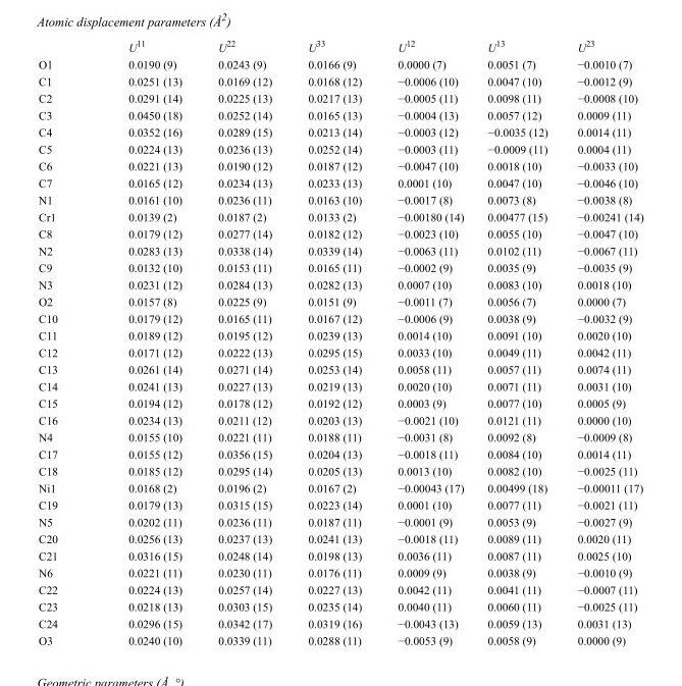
<table><thead><tr><td></td><td>U<sup>11</sup></td><td>U<sup>22</sup></td><td>U<sup>33</sup></td><td>U<sup>12</sup></td><td>U<sup>13</sup></td><td>U<sup>23</sup></td></tr></thead><tbody><tr><td>O1</td><td>0.0190 (9)</td><td>0.0243 (9)</td><td>0.0166 (9)</td><td>0.0000 (7)</td><td>0.0051 (7)</td><td>−0.0010 (7)</td></tr><tr><td>C1</td><td>0.0251 (13)</td><td>0.0169 (12)</td><td>0.0168 (12)</td><td>−0.0006 (10)</td><td>0.0047 (10)</td><td>−0.0012 (9)</td></tr><tr><td>C2</td><td>0.0291 (14)</td><td>0.0225 (13)</td><td>0.0217 (13)</td><td>−0.0005 (11)</td><td>0.0098 (11)</td><td>−0.0008 (10)</td></tr><tr><td>C3</td><td>0.0450 (18)</td><td>0.0252 (14)</td><td>0.0165 (13)</td><td>−0.0004 (13)</td><td>0.0057 (12)</td><td>0.0009 (11)</td></tr><tr><td>C4</td><td>0.0352 (16)</td><td>0.0289 (15)</td><td>0.0213 (14)</td><td>−0.0003 (12)</td><td>−0.0035 (12)</td><td>0.0014 (11)</td></tr><tr><td>C5</td><td>0.0224 (13)</td><td>0.0236 (13)</td><td>0.0252 (14)</td><td>−0.0003 (11)</td><td>−0.0009 (11)</td><td>0.0004 (11)</td></tr><tr><td>C6</td><td>0.0221 (13)</td><td>0.0190 (12)</td><td>0.0187 (12)</td><td>−0.0047 (10)</td><td>0.0018 (10)</td><td>−0.0033 (10)</td></tr><tr><td>C7</td><td>0.0165 (12)</td><td>0.0234 (13)</td><td>0.0233 (13)</td><td>0.0001 (10)</td><td>0.0047 (10)</td><td>−0.0046 (10)</td></tr><tr><td>N1</td><td>0.0161 (10)</td><td>0.0236 (11)</td><td>0.0163 (10)</td><td>−0.0017 (8)</td><td>0.0073 (8)</td><td>−0.0038 (8)</td></tr><tr><td>Cr1</td><td>0.0139 (2)</td><td>0.0187 (2)</td><td>0.0133 (2)</td><td>−0.00180 (14)</td><td>0.00477 (15)</td><td>−0.00241 (14)</td></tr><tr><td>C8</td><td>0.0179 (12)</td><td>0.0277 (14)</td><td>0.0182 (12)</td><td>−0.0023 (10)</td><td>0.0055 (10)</td><td>−0.0047 (10)</td></tr><tr><td>N2</td><td>0.0283 (13)</td><td>0.0338 (14)</td><td>0.0339 (14)</td><td>−0.0063 (11)</td><td>0.0102 (11)</td><td>−0.0067 (11)</td></tr><tr><td>C9</td><td>0.0132 (10)</td><td>0.0153 (11)</td><td>0.0165 (11)</td><td>−0.0002 (9)</td><td>0.0035 (9)</td><td>−0.0035 (9)</td></tr><tr><td>N3</td><td>0.0231 (12)</td><td>0.0284 (13)</td><td>0.0282 (13)</td><td>0.0007 (10)</td><td>0.0083 (10)</td><td>0.0018 (10)</td></tr><tr><td>O2</td><td>0.0157 (8)</td><td>0.0225 (9)</td><td>0.0151 (9)</td><td>−0.0011 (7)</td><td>0.0056 (7)</td><td>0.0000 (7)</td></tr><tr><td>C10</td><td>0.0179 (12)</td><td>0.0165 (11)</td><td>0.0167 (12)</td><td>−0.0006 (9)</td><td>0.0038 (9)</td><td>−0.0032 (9)</td></tr><tr><td>C11</td><td>0.0189 (12)</td><td>0.0195 (12)</td><td>0.0239 (13)</td><td>0.0014 (10)</td><td>0.0091 (10)</td><td>0.0020 (10)</td></tr><tr><td>C12</td><td>0.0171 (12)</td><td>0.0222 (13)</td><td>0.0295 (15)</td><td>0.0033 (10)</td><td>0.0049 (11)</td><td>0.0042 (11)</td></tr><tr><td>C13</td><td>0.0261 (14)</td><td>0.0271 (14)</td><td>0.0253 (14)</td><td>0.0058 (11)</td><td>0.0057 (11)</td><td>0.0074 (11)</td></tr><tr><td>C14</td><td>0.0241 (13)</td><td>0.0227 (13)</td><td>0.0219 (13)</td><td>0.0020 (10)</td><td>0.0071 (11)</td><td>0.0031 (10)</td></tr><tr><td>C15</td><td>0.0194 (12)</td><td>0.0178 (12)</td><td>0.0192 (12)</td><td>0.0003 (9)</td><td>0.0077 (10)</td><td>0.0005 (9)</td></tr><tr><td>C16</td><td>0.0234 (13)</td><td>0.0211 (12)</td><td>0.0203 (13)</td><td>−0.0021 (10)</td><td>0.0121 (11)</td><td>0.0000 (10)</td></tr><tr><td>N4</td><td>0.0155 (10)</td><td>0.0221 (11)</td><td>0.0188 (11)</td><td>−0.0031 (8)</td><td>0.0092 (8)</td><td>−0.0009 (8)</td></tr><tr><td>C17</td><td>0.0155 (12)</td><td>0.0356 (15)</td><td>0.0204 (13)</td><td>−0.0018 (11)</td><td>0.0084 (10)</td><td>0.0014 (11)</td></tr><tr><td>C18</td><td>0.0185 (12)</td><td>0.0295 (14)</td><td>0.0205 (13)</td><td>0.0013 (10)</td><td>0.0082 (10)</td><td>−0.0025 (11)</td></tr><tr><td>Ni1</td><td>0.0168 (2)</td><td>0.0196 (2)</td><td>0.0167 (2)</td><td>−0.00043 (17)</td><td>0.00499 (18)</td><td>−0.00011 (17)</td></tr><tr><td>C19</td><td>0.0179 (13)</td><td>0.0315 (15)</td><td>0.0223 (14)</td><td>0.0001 (10)</td><td>0.0077 (11)</td><td>−0.0021 (11)</td></tr><tr><td>N5</td><td>0.0202 (11)</td><td>0.0236 (11)</td><td>0.0187 (11)</td><td>−0.0001 (9)</td><td>0.0053 (9)</td><td>−0.0027 (9)</td></tr><tr><td>C20</td><td>0.0256 (13)</td><td>0.0237 (13)</td><td>0.0241 (13)</td><td>−0.0018 (11)</td><td>0.0089 (11)</td><td>0.0020 (11)</td></tr><tr><td>C21</td><td>0.0316 (15)</td><td>0.0248 (14)</td><td>0.0198 (13)</td><td>0.0036 (11)</td><td>0.0087 (11)</td><td>0.0025 (10)</td></tr><tr><td>N6</td><td>0.0221 (11)</td><td>0.0230 (11)</td><td>0.0176 (11)</td><td>0.0009 (9)</td><td>0.0038 (9)</td><td>−0.0010 (9)</td></tr><tr><td>C22</td><td>0.0224 (13)</td><td>0.0257 (14)</td><td>0.0227 (13)</td><td>0.0042 (11)</td><td>0.0041 (11)</td><td>−0.0007 (11)</td></tr><tr><td>C23</td><td>0.0218 (13)</td><td>0.0303 (15)</td><td>0.0235 (14)</td><td>0.0040 (11)</td><td>0.0060 (11)</td><td>−0.0025 (11)</td></tr><tr><td>C24</td><td>0.0296 (15)</td><td>0.0342 (17)</td><td>0.0319 (16)</td><td>−0.0043 (13)</td><td>0.0059 (13)</td><td>0.0031 (13)</td></tr><tr><td>O3</td><td>0.0240 (10)</td><td>0.0339 (11)</td><td>0.0288 (11)</td><td>−0.0053 (9)</td><td>0.0058 (9)</td><td>0.0000 (9)</td></tr></tbody></table>